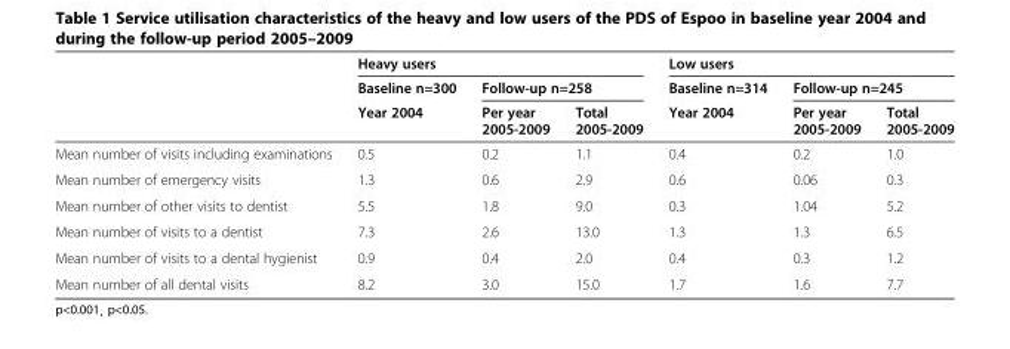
<table><thead><tr><td rowspan="3"></td><td colspan="3">Heavy users</td><td colspan="3">Low users</td></tr><tr><td rowspan="2">Baseline n=300 Year 2004</td><td colspan="2">Follow-up n=258</td><td rowspan="2">Baseline n=314 Year 2004</td><td colspan="2">Follow-up n=245</td></tr><tr><td>Per year 2005-2009</td><td>Total 2005-2009</td><td>Per year 2005-2009</td><td>Total 2005-2009</td></tr></thead><tbody><tr><td>Mean number of visits including examinations</td><td>0.5</td><td>0.2</td><td>1.1</td><td>0.4</td><td>0.2</td><td>1.0</td></tr><tr><td>Mean number of emergency visits</td><td>1.3</td><td>0.6</td><td>2.9</td><td>0.6</td><td>0.06</td><td>0.3</td></tr><tr><td>Mean number of other visits to dentist</td><td>5.5</td><td>1.8</td><td>9.0</td><td>0.3</td><td>1.04</td><td>5.2</td></tr><tr><td>Mean number of visits to a dentist</td><td>7.3</td><td>2.6</td><td>13.0</td><td>1.3</td><td>1.3</td><td>6.5</td></tr><tr><td>Mean number of visits to a dental hygienist</td><td>0.9</td><td>0.4</td><td>2.0</td><td>0.4</td><td>0.3</td><td>1.2</td></tr><tr><td>Mean number of all dental visits</td><td>8.2</td><td>3.0</td><td>15.0</td><td>1.7</td><td>1.6</td><td>7.7</td></tr></tbody></table>